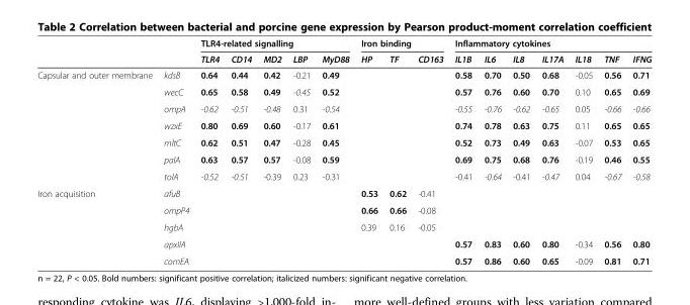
<table><thead><tr><td rowspan="2"></td><td rowspan="2"></td><td colspan="5">TLR4-related signalling</td><td colspan="3">Iron binding</td><td colspan="7">Inflammatory cytokines</td></tr><tr><td>TLR4</td><td>CD14</td><td>MD2</td><td>LBP</td><td>MyD88</td><td>HP</td><td>TF</td><td>CD163</td><td>IL1B</td><td>IL6</td><td>IL8</td><td>IL17A</td><td>IL18</td><td>TNF</td><td>IFNG</td></tr></thead><tbody><tr><td rowspan="7">Capsular and outer membrane</td><td>kdsB</td><td>0.64</td><td>0.44</td><td>0.42</td><td>-0.21</td><td>0.49</td><td></td><td></td><td></td><td>0.58</td><td>0.70</td><td>0.50</td><td>0.68</td><td>-0.05</td><td>0.56</td><td>0.71</td></tr><tr><td>wecC</td><td>0.65</td><td>0.58</td><td>0.49</td><td>-0.45</td><td>0.52</td><td></td><td></td><td></td><td>0.57</td><td>0.76</td><td>0.60</td><td>0.70</td><td>0.10</td><td>0.65</td><td>0.69</td></tr><tr><td>ompA</td><td>-0.62</td><td>-0.51</td><td>-0.48</td><td>0.31</td><td>-0.54</td><td></td><td></td><td></td><td>-0.55</td><td>-0.76</td><td>-0.62</td><td>-0.65</td><td>0.05</td><td>-0.66</td><td>-0.66</td></tr><tr><td>wzxE</td><td>0.80</td><td>0.69</td><td>0.60</td><td>-0.17</td><td>0.61</td><td></td><td></td><td></td><td>0.74</td><td>0.78</td><td>0.63</td><td>0.75</td><td>0.11</td><td>0.65</td><td>0.65</td></tr><tr><td>mltC</td><td>0.62</td><td>0.51</td><td>0.47</td><td>-0.28</td><td>0.45</td><td></td><td></td><td></td><td>0.52</td><td>0.73</td><td>0.49</td><td>0.63</td><td>-0.07</td><td>0.53</td><td>0.65</td></tr><tr><td>palA</td><td>0.63</td><td>0.57</td><td>0.57</td><td>-0.08</td><td>0.59</td><td></td><td></td><td></td><td>0.69</td><td>0.75</td><td>0.68</td><td>0.76</td><td>-0.19</td><td>0.46</td><td>0.55</td></tr><tr><td>tolA</td><td>-0.52</td><td>-0.51</td><td>-0.39</td><td>0.23</td><td>-0.31</td><td></td><td></td><td></td><td>-0.41</td><td>-0.64</td><td>-0.41</td><td>-0.47</td><td>0.04</td><td>-0.67</td><td>-0.58</td></tr><tr><td rowspan="5">Iron acquisition</td><td>afuB</td><td></td><td></td><td></td><td></td><td></td><td>0.53</td><td>0.62</td><td>-0.41</td><td></td><td></td><td></td><td></td><td></td><td></td><td></td></tr><tr><td>ompP4</td><td></td><td></td><td></td><td></td><td></td><td>0.66</td><td>0.66</td><td>-0.08</td><td></td><td></td><td></td><td></td><td></td><td></td><td></td></tr><tr><td>hgbA</td><td></td><td></td><td></td><td></td><td></td><td>0.39</td><td>0.16</td><td>-0.05</td><td></td><td></td><td></td><td></td><td></td><td></td><td></td></tr><tr><td>apxIIA</td><td></td><td></td><td></td><td></td><td></td><td></td><td></td><td></td><td>0.57</td><td>0.83</td><td>0.60</td><td>0.80</td><td>-0.34</td><td>0.56</td><td>0.80</td></tr><tr><td>comEA</td><td></td><td></td><td></td><td></td><td></td><td></td><td></td><td></td><td>0.57</td><td>0.86</td><td>0.60</td><td>0.65</td><td>-0.09</td><td>0.81</td><td>0.71</td></tr></tbody></table>